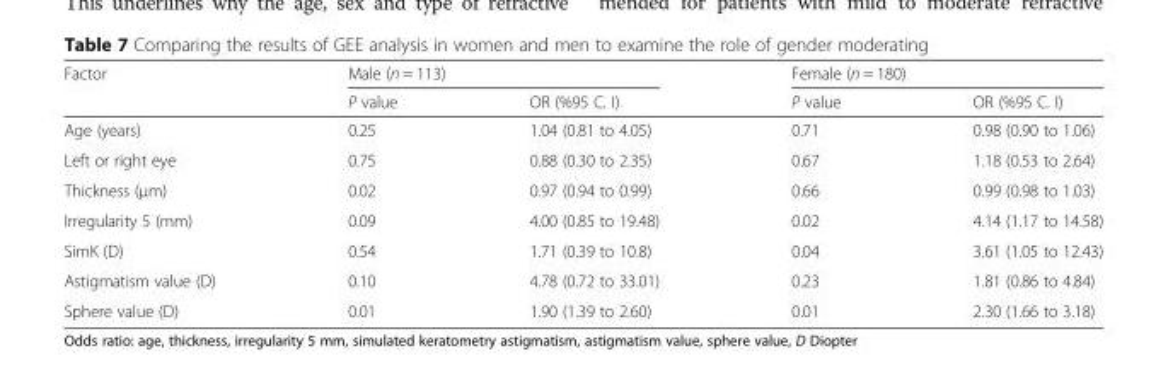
<table><thead><tr><td rowspan="2">Factor</td><td colspan="2">Male (n = 113)</td><td colspan="2">Female (n = 180)</td></tr><tr><td>P value</td><td>OR (%95 C. I)</td><td>P value</td><td>OR (%95 C. I)</td></tr></thead><tbody><tr><td>Age (years)</td><td>0.25</td><td>1.04 (0.81 to 4.05)</td><td>0.71</td><td>0.98 (0.90 to 1.06)</td></tr><tr><td>Left or right eye</td><td>0.75</td><td>0.88 (0.30 to 2.35)</td><td>0.67</td><td>1.18 (0.53 to 2.64)</td></tr><tr><td>Thickness (μm)</td><td>0.02</td><td>0.97 (0.94 to 0.99)</td><td>0.66</td><td>0.99 (0.98 to 1.03)</td></tr><tr><td>Irregularity 5 (mm)</td><td>0.09</td><td>4.00 (0.85 to 19.48)</td><td>0.02</td><td>4.14 (1.17 to 14.58)</td></tr><tr><td>SimK (D)</td><td>0.54</td><td>1.71 (0.39 to 10.8)</td><td>0.04</td><td>3.61 (1.05 to 12.43)</td></tr><tr><td>Astigmatism value (D)</td><td>0.10</td><td>4.78 (0.72 to 33.01)</td><td>0.23</td><td>1.81 (0.86 to 4.84)</td></tr><tr><td>Sphere value (D)</td><td>0.01</td><td>1.90 (1.39 to 2.60)</td><td>0.01</td><td>2.30 (1.66 to 3.18)</td></tr></tbody></table>